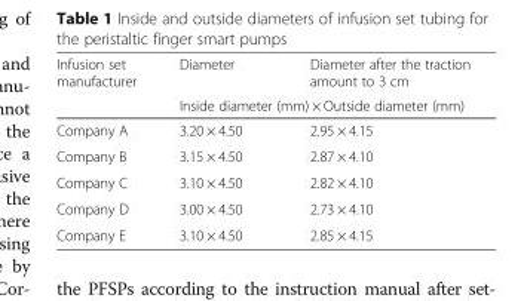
<table><thead><tr><td rowspan="2">Infusion set manufacturer</td><td>Diameter</td><td>Diameter after the traction amount to 3 cm</td></tr><tr><td colspan="2">Inside diameter (mm) × Outside diameter (mm)</td></tr></thead><tbody><tr><td>Company A</td><td>3.20 × 4.50</td><td>2.95 × 4.15</td></tr><tr><td>Company B</td><td>3.15 × 4.50</td><td>2.87 × 4.10</td></tr><tr><td>Company C</td><td>3.10 × 4.50</td><td>2.82 × 4.10</td></tr><tr><td>Company D</td><td>3.00 × 4.50</td><td>2.73 × 4.10</td></tr><tr><td>Company E</td><td>3.10 × 4.50</td><td>2.85 × 4.15</td></tr></tbody></table>